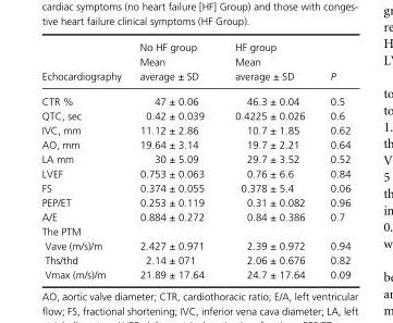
<table><thead><tr><td>Echocardiography</td><td>No HF group Mean average ± SD</td><td>HF group Mean average ± SD</td><td>P</td></tr></thead><tbody><tr><td>CTR %</td><td>47 ± 0.06</td><td>46.3 ± 0.04</td><td>0.5</td></tr><tr><td>QTC, sec</td><td>0.42 ± 0.039</td><td>0.4225 ± 0.026</td><td>0.6</td></tr><tr><td>IVC, mm</td><td>11.12 ± 2.86</td><td>10.7 ± 1.85</td><td>0.62</td></tr><tr><td>AO, mm</td><td>19.64 ± 3.14</td><td>19.7 ± 2.21</td><td>0.64</td></tr><tr><td>LA mm</td><td>30 ± 5.09</td><td>29.7 ± 3.52</td><td>0.52</td></tr><tr><td>LVEF</td><td>0.753 ± 0.063</td><td>0.76 ± 6.6</td><td>0.84</td></tr><tr><td>FS</td><td>0.374 ± 0.055</td><td>0.378 ± 5.4</td><td>0.06</td></tr><tr><td>PEP/ET</td><td>0.253 ± 0.119</td><td>0.31 ± 0.082</td><td>0.96</td></tr><tr><td>A/E</td><td>0.884 ± 0.272</td><td>0.84 ± 0.386</td><td>0.7</td></tr><tr><td colspan="4">The PTM</td></tr><tr><td>Vave (m/s)/m</td><td>2.427 ± 0.971</td><td>2.39 ± 0.972</td><td>0.94</td></tr><tr><td>Ths/thd</td><td>2.14 ± 071</td><td>2.06 ± 0.676</td><td>0.82</td></tr><tr><td>Vmax (m/s)/m</td><td>21.89 ± 17.64</td><td>24.7 ± 17.64</td><td>0.09</td></tr></tbody></table>